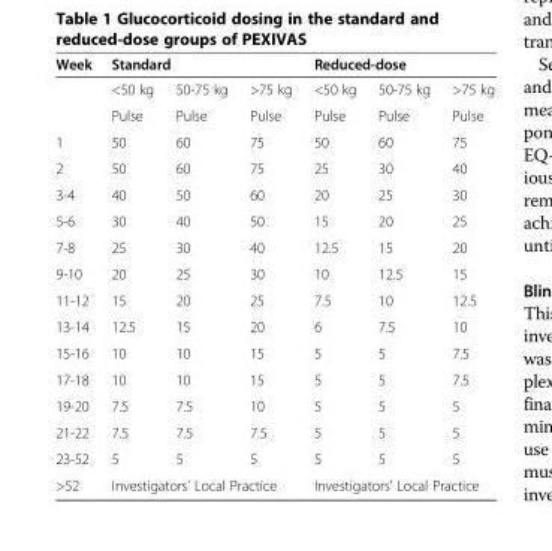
<table><thead><tr><td rowspan="2">Week</td><td colspan="3">Standard</td><td colspan="3">Reduced-dose</td></tr><tr><td>&lt;50 kg</td><td>50-75 kg</td><td>&gt;75 kg</td><td>&lt;50 kg</td><td>50-75 kg</td><td>&gt;75 kg</td></tr></thead><tbody><tr><td></td><td>Pulse</td><td>Pulse</td><td>Pulse</td><td>Pulse</td><td>Pulse</td><td>Pulse</td></tr><tr><td>1</td><td>50</td><td>60</td><td>75</td><td>50</td><td>60</td><td>75</td></tr><tr><td>2</td><td>50</td><td>60</td><td>75</td><td>25</td><td>30</td><td>40</td></tr><tr><td>3-4</td><td>40</td><td>50</td><td>60</td><td>20</td><td>25</td><td>30</td></tr><tr><td>5-6</td><td>30</td><td>40</td><td>50</td><td>15</td><td>20</td><td>25</td></tr><tr><td>7-8</td><td>25</td><td>30</td><td>40</td><td>12.5</td><td>15</td><td>20</td></tr><tr><td>9-10</td><td>20</td><td>25</td><td>30</td><td>10</td><td>12.5</td><td>15</td></tr><tr><td>11-12</td><td>15</td><td>20</td><td>25</td><td>7.5</td><td>10</td><td>12.5</td></tr><tr><td>13-14</td><td>12.5</td><td>15</td><td>20</td><td>6</td><td>7.5</td><td>10</td></tr><tr><td>15-16</td><td>10</td><td>10</td><td>15</td><td>5</td><td>5</td><td>7.5</td></tr><tr><td>17-18</td><td>10</td><td>10</td><td>15</td><td>5</td><td>5</td><td>7.5</td></tr><tr><td>19-20</td><td>7.5</td><td>7.5</td><td>10</td><td>5</td><td>5</td><td>5</td></tr><tr><td>21-22</td><td>7.5</td><td>7.5</td><td>7.5</td><td>5</td><td>5</td><td>5</td></tr><tr><td>23-52</td><td>5</td><td>5</td><td>5</td><td>5</td><td>5</td><td>5</td></tr><tr><td>&gt;52</td><td colspan="3">Investigators’ Local Practice</td><td colspan="3">Investigators’ Local Practice</td></tr></tbody></table>